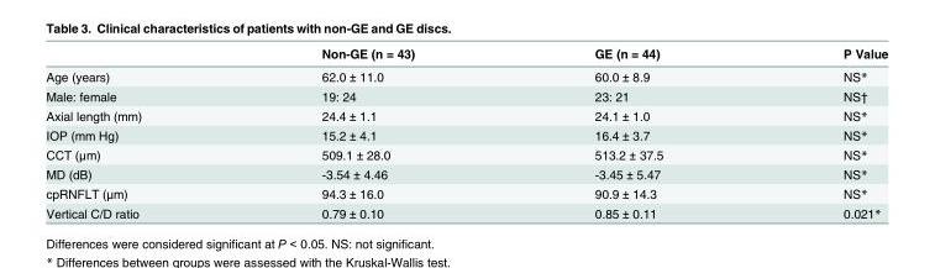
<table><thead><tr><td></td><td>Non-GE (n = 43)</td><td>GE (n = 44)</td><td>P Value</td></tr></thead><tbody><tr><td>Age (years)</td><td>62.0 ± 11.0</td><td>60.0 ± 8.9</td><td>NS*</td></tr><tr><td>Male: female</td><td>19: 24</td><td>23: 21</td><td>NS†</td></tr><tr><td>Axial length (mm)</td><td>24.4 ± 1.1</td><td>24.1 ± 1.0</td><td>NS*</td></tr><tr><td>IOP (mm Hg)</td><td>15.2 ± 4.1</td><td>16.4 ± 3.7</td><td>NS*</td></tr><tr><td>CCT (μm)</td><td>509.1 ± 28.0</td><td>513.2 ± 37.5</td><td>NS*</td></tr><tr><td>MD (dB)</td><td>-3.54 ± 4.46</td><td>-3.45 ± 5.47</td><td>NS*</td></tr><tr><td>cpRNFLT (μm)</td><td>94.3 ± 16.0</td><td>90.9 ± 14.3</td><td>NS*</td></tr><tr><td>Vertical C/D ratio</td><td>0.79 ± 0.10</td><td>0.85 ± 0.11</td><td>0.021*</td></tr></tbody></table>